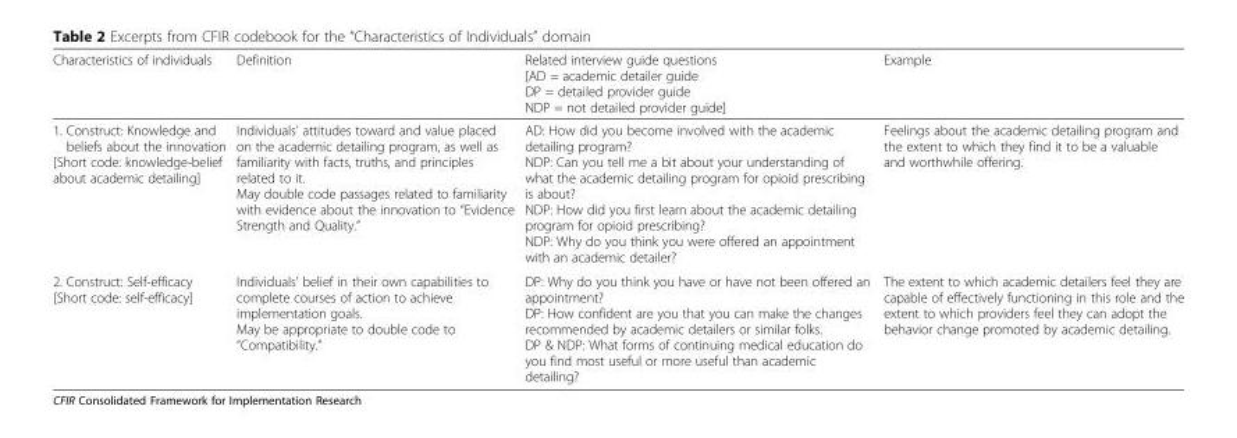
<table><thead><tr><td>Characteristics of individuals</td><td>Definition</td><td>Related interview guide questions [AD = academic detailer guide DP = detailed provider guide NDP = not detailed provider guide]</td><td>Example</td></tr></thead><tbody><tr><td>1. Construct: Knowledge and beliefs about the innovation [Short code: knowledge-belief about academic detailing]</td><td>Individuals’ attitudes toward and value placed on the academic detailing program, as well as familiarity with facts, truths, and principles related to it. May double code passages related to familiarity with evidence about the innovation to “Evidence Strength and Quality.”</td><td>AD: How did you become involved with the academic detailing program? NDP: Can you tell me a bit about your understanding of what the academic detailing program for opioid prescribing is about? NDP: How did you first learn about the academic detailing program for opioid prescribing? NDP: Why do you think you were offered an appointment with an academic detailer?</td><td>Feelings about the academic detailing program and the extent to which they find it to be a valuable and worthwhile offering.</td></tr><tr><td>2. Construct: Self-efficacy [Short code: self-efficacy]</td><td>Individuals’ belief in their own capabilities to complete courses of action to achieve implementation goals. May be appropriate to double code to “Compatibility.”</td><td>DP: Why do you think you have or have not been offered an appointment? DP: How confident are you that you can make the changes recommended by academic detailers or similar folks. DP &amp; NDP: What forms of continuing medical education do you find most useful or more useful than academic detailing?</td><td>The extent to which academic detailers feel they are capable of effectively functioning in this role and the extent to which providers feel they can adopt the behavior change promoted by academic detailing.</td></tr></tbody></table>